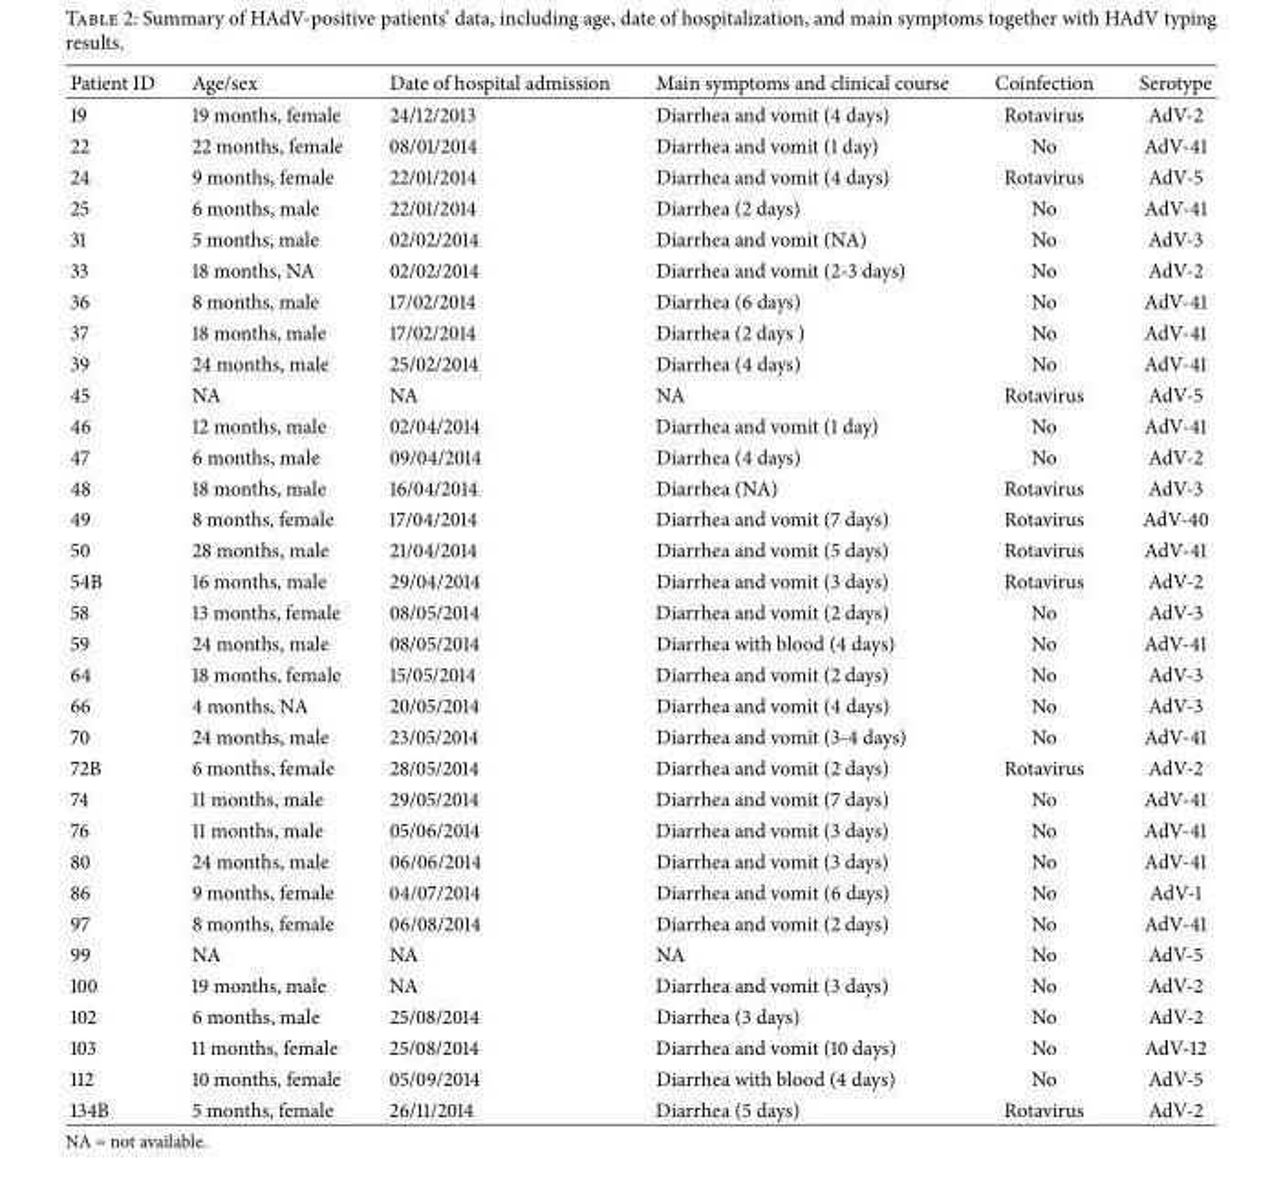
<table><thead><tr><td>Patient ID</td><td>Age/sex</td><td>Date of hospital admission</td><td>Main symptoms and clinical course</td><td>Coinfection</td><td>Serotype</td></tr></thead><tbody><tr><td>19</td><td>19 months, female</td><td>24/12/2013</td><td>Diarrhea and vomit (4 days)</td><td>Rotavirus</td><td>AdV-2</td></tr><tr><td>22</td><td>22 months, female</td><td>08/01/2014</td><td>Diarrhea and vomit (1 day)</td><td>No</td><td>AdV-41</td></tr><tr><td>24</td><td>9 months, female</td><td>22/01/2014</td><td>Diarrhea and vomit (4 days)</td><td>Rotavirus</td><td>AdV-5</td></tr><tr><td>25</td><td>6 months, male</td><td>22/01/2014</td><td>Diarrhea (2 days)</td><td>No</td><td>AdV-41</td></tr><tr><td>31</td><td>5 months, male</td><td>02/02/2014</td><td>Diarrhea and vomit (NA)</td><td>No</td><td>AdV-3</td></tr><tr><td>33</td><td>18 months, NA</td><td>02/02/2014</td><td>Diarrhea and vomit (2-3 days)</td><td>No</td><td>AdV-2</td></tr><tr><td>36</td><td>8 months, male</td><td>17/02/2014</td><td>Diarrhea (6 days)</td><td>No</td><td>AdV-41</td></tr><tr><td>37</td><td>18 months, male</td><td>17/02/2014</td><td>Diarrhea (2 days )</td><td>No</td><td>AdV-41</td></tr><tr><td>39</td><td>24 months, male</td><td>25/02/2014</td><td>Diarrhea (4 days)</td><td>No</td><td>AdV-41</td></tr><tr><td>45</td><td>NA</td><td>NA</td><td>NA</td><td>Rotavirus</td><td>AdV-5</td></tr><tr><td>46</td><td>12 months, male</td><td>02/04/2014</td><td>Diarrhea and vomit (1 day)</td><td>No</td><td>AdV-41</td></tr><tr><td>47</td><td>6 months, male</td><td>09/04/2014</td><td>Diarrhea (4 days)</td><td>No</td><td>AdV-2</td></tr><tr><td>48</td><td>18 months, male</td><td>16/04/2014</td><td>Diarrhea (NA)</td><td>Rotavirus</td><td>AdV-3</td></tr><tr><td>49</td><td>8 months, female</td><td>17/04/2014</td><td>Diarrhea and vomit (7 days)</td><td>Rotavirus</td><td>AdV-40</td></tr><tr><td>50</td><td>28 months, male</td><td>21/04/2014</td><td>Diarrhea and vomit (5 days)</td><td>Rotavirus</td><td>AdV-41</td></tr><tr><td>54B</td><td>16 months, male</td><td>29/04/2014</td><td>Diarrhea and vomit (3 days)</td><td>Rotavirus</td><td>AdV-2</td></tr><tr><td>58</td><td>13 months, female</td><td>08/05/2014</td><td>Diarrhea and vomit (2 days)</td><td>No</td><td>AdV-3</td></tr><tr><td>59</td><td>24 months, male</td><td>08/05/2014</td><td>Diarrhea with blood (4 days)</td><td>No</td><td>AdV-41</td></tr><tr><td>64</td><td>18 months, female</td><td>15/05/2014</td><td>Diarrhea and vomit (2 days)</td><td>No</td><td>AdV-3</td></tr><tr><td>66</td><td>4 months, NA</td><td>20/05/2014</td><td>Diarrhea and vomit (4 days)</td><td>No</td><td>AdV-3</td></tr><tr><td>70</td><td>24 months, male</td><td>23/05/2014</td><td>Diarrhea and vomit (3-4 days)</td><td>No</td><td>AdV-41</td></tr><tr><td>72B</td><td>6 months, female</td><td>28/05/2014</td><td>Diarrhea and vomit (2 days)</td><td>Rotavirus</td><td>AdV-2</td></tr><tr><td>74</td><td>11 months, male</td><td>29/05/2014</td><td>Diarrhea and vomit (7 days)</td><td>No</td><td>AdV-41</td></tr><tr><td>76</td><td>11 months, male</td><td>05/06/2014</td><td>Diarrhea and vomit (3 days)</td><td>No</td><td>AdV-41</td></tr><tr><td>80</td><td>24 months, male</td><td>06/06/2014</td><td>Diarrhea and vomit (3 days)</td><td>No</td><td>AdV-41</td></tr><tr><td>86</td><td>9 months, female</td><td>04/07/2014</td><td>Diarrhea and vomit (6 days)</td><td>No</td><td>AdV-1</td></tr><tr><td>97</td><td>8 months, female</td><td>06/08/2014</td><td>Diarrhea and vomit (2 days)</td><td>No</td><td>AdV-41</td></tr><tr><td>99</td><td>NA</td><td>NA</td><td>NA</td><td>No</td><td>AdV-5</td></tr><tr><td>100</td><td>19 months, male</td><td>NA</td><td>Diarrhea and vomit (3 days)</td><td>No</td><td>AdV-2</td></tr><tr><td>102</td><td>6 months, male</td><td>25/08/2014</td><td>Diarrhea (3 days)</td><td>No</td><td>AdV-2</td></tr><tr><td>103</td><td>11 months, female</td><td>25/08/2014</td><td>Diarrhea and vomit (10 days)</td><td>No</td><td>AdV-12</td></tr><tr><td>112</td><td>10 months, female</td><td>05/09/2014</td><td>Diarrhea with blood (4 days)</td><td>No</td><td>AdV-5</td></tr><tr><td>134B</td><td>5 months, female</td><td>26/11/2014</td><td>Diarrhea (5 days)</td><td>Rotavirus</td><td>AdV-2</td></tr></tbody></table>